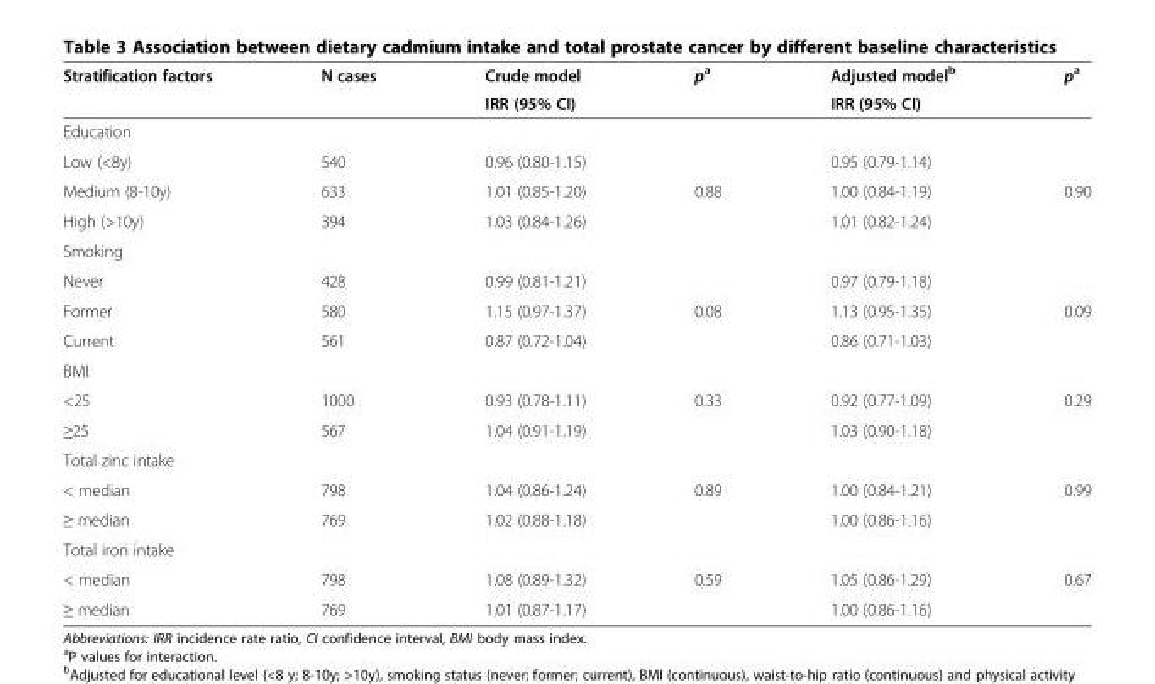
<table><thead><tr><td rowspan="2">Stratification factors</td><td rowspan="2">N cases</td><td rowspan="2">Crude model IRR (95% CI)</td><td rowspan="2">p<sup>a</sup></td><td rowspan="2">Adjusted model<sup>b</sup> IRR (95% CI)</td><td rowspan="2">p<sup>a</sup></td></tr><tr></tr></thead><tbody><tr><td colspan="6">Education</td></tr><tr><td>Low (&lt;8y)</td><td>540</td><td>0.96 (0.80-1.15)</td><td></td><td>0.95 (0.79-1.14)</td><td></td></tr><tr><td>Medium (8-10y)</td><td>633</td><td>1.01 (0.85-1.20)</td><td>0.88</td><td>1.00 (0.84-1.19)</td><td>0.90</td></tr><tr><td>High (&gt;10y)</td><td>394</td><td>1.03 (0.84-1.26)</td><td></td><td>1.01 (0.82-1.24)</td><td></td></tr><tr><td colspan="6">Smoking</td></tr><tr><td>Never</td><td>428</td><td>0.99 (0.81-1.21)</td><td></td><td>0.97 (0.79-1.18)</td><td></td></tr><tr><td>Former</td><td>580</td><td>1.15 (0.97-1.37)</td><td>0.08</td><td>1.13 (0.95-1.35)</td><td>0.09</td></tr><tr><td>Current</td><td>561</td><td>0.87 (0.72-1.04)</td><td></td><td>0.86 (0.71-1.03)</td><td></td></tr><tr><td colspan="6">BMI</td></tr><tr><td>&lt;25</td><td>1000</td><td>0.93 (0.78-1.11)</td><td>0.33</td><td>0.92 (0.77-1.09)</td><td>0.29</td></tr><tr><td>≥25</td><td>567</td><td>1.04 (0.91-1.19)</td><td></td><td>1.03 (0.90-1.18)</td><td></td></tr><tr><td colspan="6">Total zinc intake</td></tr><tr><td>&lt; median</td><td>798</td><td>1.04 (0.86-1.24)</td><td>0.89</td><td>1.00 (0.84-1.21)</td><td>0.99</td></tr><tr><td>≥ median</td><td>769</td><td>1.02 (0.88-1.18)</td><td></td><td>1.00 (0.86-1.16)</td><td></td></tr><tr><td colspan="6">Total iron intake</td></tr><tr><td>&lt; median</td><td>798</td><td>1.08 (0.89-1.32)</td><td>0.59</td><td>1.05 (0.86-1.29)</td><td>0.67</td></tr><tr><td>≥ median</td><td>769</td><td>1.01 (0.87-1.17)</td><td></td><td>1.00 (0.86-1.16)</td><td></td></tr></tbody></table>